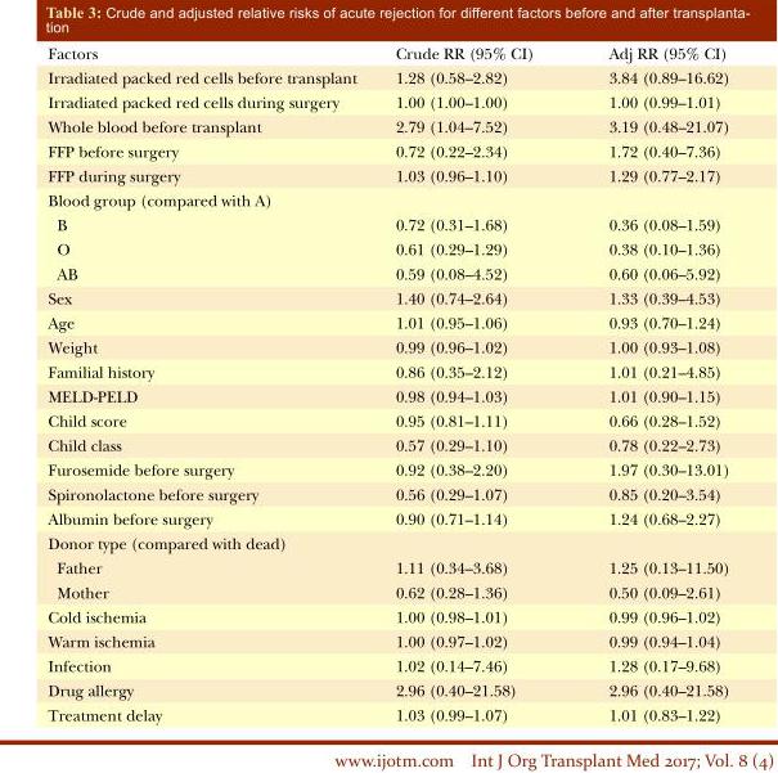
<table><thead><tr><td>Factors</td><td>Crude RR (95% CI)</td><td>Adj RR (95% CI)</td></tr></thead><tbody><tr><td>Irradiated packed red cells before transplant</td><td>1.28 (0.58–2.82)</td><td>3.84 (0.89–16.62)</td></tr><tr><td>Irradiated packed red cells during surgery</td><td>1.00 (1.00–1.00)</td><td>1.00 (0.99–1.01)</td></tr><tr><td>Whole blood before transplant</td><td>2.79 (1.04–7.52)</td><td>3.19 (0.48–21.07)</td></tr><tr><td>FFP before surgery</td><td>0.72 (0.22–2.34)</td><td>1.72 (0.40–7.36)</td></tr><tr><td>FFP during surgery</td><td>1.03 (0.96–1.10)</td><td>1.29 (0.77–2.17)</td></tr><tr><td colspan="3">Blood group (compared with A)</td></tr><tr><td>B</td><td>0.72 (0.31–1.68)</td><td>0.36 (0.08–1.59)</td></tr><tr><td>O</td><td>0.61 (0.29–1.29)</td><td>0.38 (0.10–1.36)</td></tr><tr><td>AB</td><td>0.59 (0.08–4.52)</td><td>0.60 (0.06–5.92)</td></tr><tr><td>Sex</td><td>1.40 (0.74–2.64)</td><td>1.33 (0.39–4.53)</td></tr><tr><td>Age</td><td>1.01 (0.95–1.06)</td><td>0.93 (0.70–1.24)</td></tr><tr><td>Weight</td><td>0.99 (0.96–1.02)</td><td>1.00 (0.93–1.08)</td></tr><tr><td>Familial history</td><td>0.86 (0.35–2.12)</td><td>1.01 (0.21–4.85)</td></tr><tr><td>MELD-PELD</td><td>0.98 (0.94–1.03)</td><td>1.01 (0.90–1.15)</td></tr><tr><td>Child score</td><td>0.95 (0.81–1.11)</td><td>0.66 (0.28–1.52)</td></tr><tr><td>Child class</td><td>0.57 (0.29–1.10)</td><td>0.78 (0.22–2.73)</td></tr><tr><td>Furosemide before surgery</td><td>0.92 (0.38–2.20)</td><td>1.97 (0.30–13.01)</td></tr><tr><td>Spironolactone before surgery</td><td>0.56 (0.29–1.07)</td><td>0.85 (0.20–3.54)</td></tr><tr><td>Albumin before surgery</td><td>0.90 (0.71–1.14)</td><td>1.24 (0.68–2.27)</td></tr><tr><td colspan="3">Donor type (compared with dead)</td></tr><tr><td>Father</td><td>1.11 (0.34–3.68)</td><td>1.25 (0.13–11.50)</td></tr><tr><td>Mother</td><td>0.62 (0.28–1.36)</td><td>0.50 (0.09–2.61)</td></tr><tr><td>Cold ischemia</td><td>1.00 (0.98–1.01)</td><td>0.99 (0.96–1.02)</td></tr><tr><td>Warm ischemia</td><td>1.00 (0.97–1.02)</td><td>0.99 (0.94–1.04)</td></tr><tr><td>Infection</td><td>1.02 (0.14–7.46)</td><td>1.28 (0.17–9.68)</td></tr><tr><td>Drug allergy</td><td>2.96 (0.40–21.58)</td><td>2.96 (0.40–21.58)</td></tr><tr><td>Treatment delay</td><td>1.03 (0.99–1.07)</td><td>1.01 (0.83–1.22)</td></tr></tbody></table>